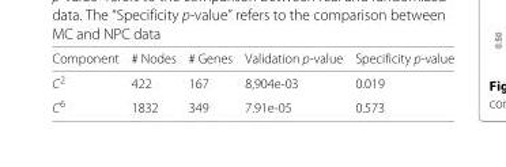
<table><thead><tr><td>Component</td><td># Nodes</td><td># Genes</td><td>Validation p-value</td><td>Specificity p-value</td></tr></thead><tbody><tr><td>C<sup>2</sup></td><td>422</td><td>167</td><td>8,904e-03</td><td>0.019</td></tr><tr><td>C<sup>6</sup></td><td>1832</td><td>349</td><td>7.91e-05</td><td>0.573</td></tr></tbody></table>